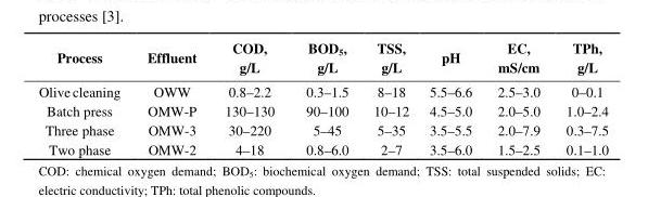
<table><thead><tr><td>Process</td><td>Effluent</td><td>COD, g/L</td><td>BOD<sub>5</sub>, g/L</td><td>TSS, g/L</td><td>pH</td><td>EC, mS/cm</td><td>TPh, g/L</td></tr></thead><tbody><tr><td>Olive cleaning</td><td>OWW</td><td>0.8–2.2</td><td>0.3–1.5</td><td>8–18</td><td>5.5–6.6</td><td>2.5–3.0</td><td>0–0.1</td></tr><tr><td>Batch press</td><td>OMW-P</td><td>130–130</td><td>90–100</td><td>10–12</td><td>4.5–5.0</td><td>2.0–5.0</td><td>1.0–2.4</td></tr><tr><td>Three phase</td><td>OMW-3</td><td>30–220</td><td>5–45</td><td>5–35</td><td>3.5–5.5</td><td>2.0–7.9</td><td>0.3–7.5</td></tr><tr><td>Two phase</td><td>OMW-2</td><td>4–18</td><td>0.8–6.0</td><td>2–7</td><td>3.5–6.0</td><td>1.5–2.5</td><td>0.1–1.0</td></tr></tbody></table>